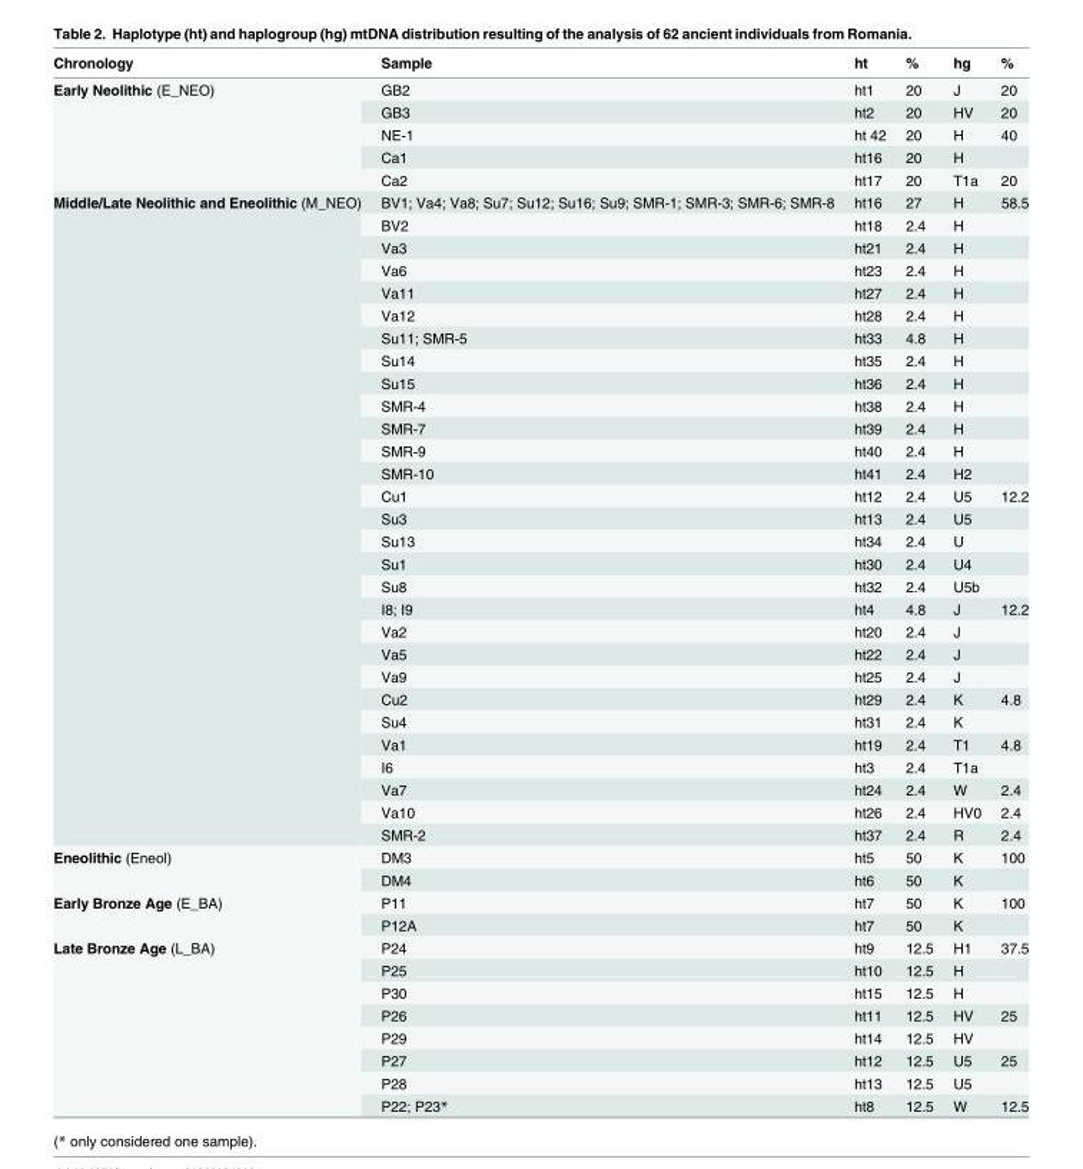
<table><thead><tr><td>Chronology</td><td>Sample</td><td>ht</td><td>%</td><td>hg</td><td>%</td></tr></thead><tbody><tr><td rowspan="5">Early Neolithic (E_NEO)</td><td>GB2</td><td>ht1</td><td>20</td><td>J</td><td>20</td></tr><tr><td>GB3</td><td>ht2</td><td>20</td><td>HV</td><td>20</td></tr><tr><td>NE-1</td><td>ht 42</td><td>20</td><td>H</td><td>40</td></tr><tr><td>Ca1</td><td>ht16</td><td>20</td><td>H</td><td></td></tr><tr><td>Ca2</td><td>ht17</td><td>20</td><td>T1a</td><td>20</td></tr><tr><td rowspan="29">Middle/Late Neolithic and Eneolithic (M_NEO)</td><td>BV1; Va4; Va8; Su7; Su12; Su16; Su9; SMR-1; SMR-3; SMR-6; SMR-8</td><td>ht16</td><td>27</td><td>H</td><td>58.5</td></tr><tr><td>BV2</td><td>ht18</td><td>2.4</td><td>H</td><td></td></tr><tr><td>Va3</td><td>ht21</td><td>2.4</td><td>H</td><td></td></tr><tr><td>Va6</td><td>ht23</td><td>2.4</td><td>H</td><td></td></tr><tr><td>Va11</td><td>ht27</td><td>2.4</td><td>H</td><td></td></tr><tr><td>Va12</td><td>ht28</td><td>2.4</td><td>H</td><td></td></tr><tr><td>Su11; SMR-5</td><td>ht33</td><td>4.8</td><td>H</td><td></td></tr><tr><td>Su14</td><td>ht35</td><td>2.4</td><td>H</td><td></td></tr><tr><td>Su15</td><td>ht36</td><td>2.4</td><td>H</td><td></td></tr><tr><td>SMR-4</td><td>ht38</td><td>2.4</td><td>H</td><td></td></tr><tr><td>SMR-7</td><td>ht39</td><td>2.4</td><td>H</td><td></td></tr><tr><td>SMR-9</td><td>ht40</td><td>2.4</td><td>H</td><td></td></tr><tr><td>SMR-10</td><td>ht41</td><td>2.4</td><td>H2</td><td></td></tr><tr><td>Cu1</td><td>ht12</td><td>2.4</td><td>U5</td><td>12.2</td></tr><tr><td>Su3</td><td>ht13</td><td>2.4</td><td>U5</td><td></td></tr><tr><td>Su13</td><td>ht34</td><td>2.4</td><td>U</td><td></td></tr><tr><td>Su1</td><td>ht30</td><td>2.4</td><td>U4</td><td></td></tr><tr><td>Su8</td><td>ht32</td><td>2.4</td><td>U5b</td><td></td></tr><tr><td>I8; I9</td><td>ht4</td><td>4.8</td><td>J</td><td>12.2</td></tr><tr><td>Va2</td><td>ht20</td><td>2.4</td><td>J</td><td></td></tr><tr><td>Va5</td><td>ht22</td><td>2.4</td><td>J</td><td></td></tr><tr><td>Va9</td><td>ht25</td><td>2.4</td><td>J</td><td></td></tr><tr><td>Cu2</td><td>ht29</td><td>2.4</td><td>K</td><td>4.8</td></tr><tr><td>Su4</td><td>ht31</td><td>2.4</td><td>K</td><td></td></tr><tr><td>Va1</td><td>ht19</td><td>2.4</td><td>T1</td><td>4.8</td></tr><tr><td>I6</td><td>ht3</td><td>2.4</td><td>T1a</td><td></td></tr><tr><td>Va7</td><td>ht24</td><td>2.4</td><td>W</td><td>2.4</td></tr><tr><td>Va10</td><td>ht26</td><td>2.4</td><td>HV0</td><td>2.4</td></tr><tr><td>SMR-2</td><td>ht37</td><td>2.4</td><td>R</td><td>2.4</td></tr><tr><td rowspan="2">Eneolithic (Eneol)</td><td>DM3</td><td>ht5</td><td>50</td><td>K</td><td>100</td></tr><tr><td>DM4</td><td>ht6</td><td>50</td><td>K</td><td></td></tr><tr><td rowspan="2">Early Bronze Age (E_BA)</td><td>P11</td><td>ht7</td><td>50</td><td>K</td><td>100</td></tr><tr><td>P12A</td><td>ht7</td><td>50</td><td>K</td><td></td></tr><tr><td rowspan="8">Late Bronze Age (L_BA)</td><td>P24</td><td>ht9</td><td>12.5</td><td>H1</td><td>37.5</td></tr><tr><td>P25</td><td>ht10</td><td>12.5</td><td>H</td><td></td></tr><tr><td>P30</td><td>ht15</td><td>12.5</td><td>H</td><td></td></tr><tr><td>P26</td><td>ht11</td><td>12.5</td><td>HV</td><td>25</td></tr><tr><td>P29</td><td>ht14</td><td>12.5</td><td>HV</td><td></td></tr><tr><td>P27</td><td>ht12</td><td>12.5</td><td>U5</td><td>25</td></tr><tr><td>P28</td><td>ht13</td><td>12.5</td><td>U5</td><td></td></tr><tr><td>P22; P23*</td><td>ht8</td><td>12.5</td><td>W</td><td>12.5</td></tr></tbody></table>